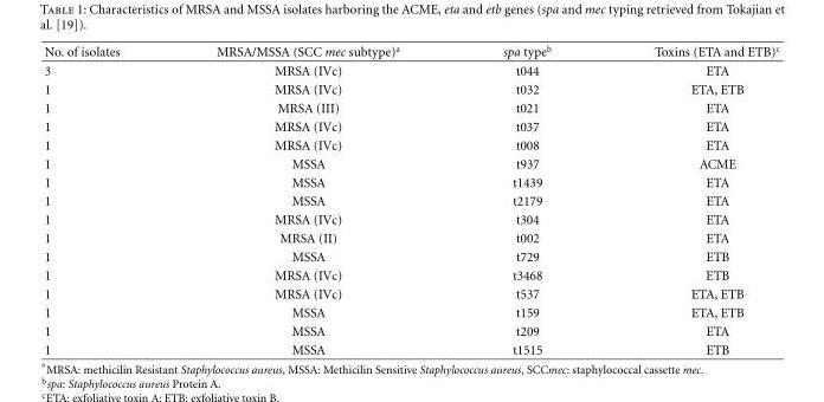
<table><thead><tr><td>No. of isolates</td><td>MRSA/MSSA (SCC mec subtype)<sup>a</sup></td><td>spa type<sup>b</sup></td><td>Toxins (ETA and ETB)<sup>c</sup></td></tr></thead><tbody><tr><td>3</td><td>MRSA (IVc)</td><td>t044</td><td>ETA</td></tr><tr><td>1</td><td>MRSA (IVc)</td><td>t032</td><td>ETA, ETB</td></tr><tr><td>1</td><td>MRSA (III)</td><td>t021</td><td>ETA</td></tr><tr><td>1</td><td>MRSA (IVc)</td><td>t037</td><td>ETA</td></tr><tr><td>1</td><td>MRSA (IVc)</td><td>t008</td><td>ETA</td></tr><tr><td>1</td><td>MSSA</td><td>t937</td><td>ACME</td></tr><tr><td>1</td><td>MSSA</td><td>t1439</td><td>ETA</td></tr><tr><td>1</td><td>MSSA</td><td>t2179</td><td>ETA</td></tr><tr><td>1</td><td>MRSA (IVc)</td><td>t304</td><td>ETA</td></tr><tr><td>1</td><td>MRSA (II)</td><td>t002</td><td>ETA</td></tr><tr><td>1</td><td>MSSA</td><td>t729</td><td>ETB</td></tr><tr><td>1</td><td>MRSA (IVc)</td><td>t3468</td><td>ETB</td></tr><tr><td>1</td><td>MRSA (IVc)</td><td>t537</td><td>ETA, ETB</td></tr><tr><td>1</td><td>MSSA</td><td>t159</td><td>ETA, ETB</td></tr><tr><td>1</td><td>MSSA</td><td>t209</td><td>ETA</td></tr><tr><td>1</td><td>MSSA</td><td>t1515</td><td>ETB</td></tr></tbody></table>